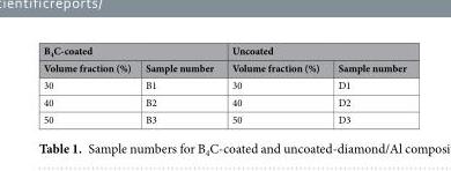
<table><thead><tr><td colspan="2">B<sub>4</sub>C-coated</td><td colspan="2">Uncoated</td></tr><tr><td>Volume fraction (%)</td><td>Sample number</td><td>Volume fraction (%)</td><td>Sample number</td></tr></thead><tbody><tr><td>30</td><td>B1</td><td>30</td><td>D1</td></tr><tr><td>40</td><td>B2</td><td>40</td><td>D2</td></tr><tr><td>50</td><td>B3</td><td>50</td><td>D3</td></tr></tbody></table>